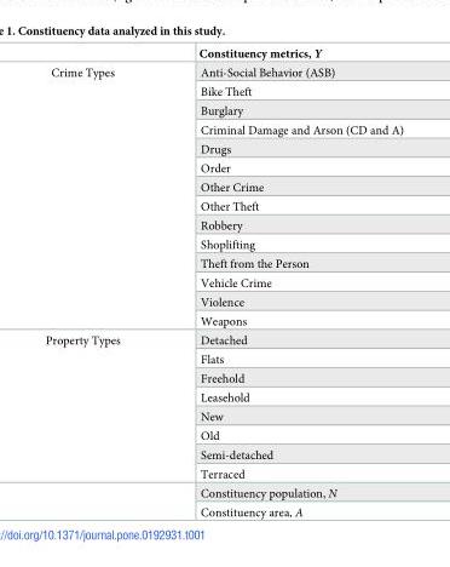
<table><thead><tr><td></td><td>Constituency metrics, Y</td></tr></thead><tbody><tr><td rowspan="14">Crime Types</td><td>Anti-Social Behavior (ASB)</td></tr><tr><td>Bike Theft</td></tr><tr><td>Burglary</td></tr><tr><td>Criminal Damage and Arson (CD and A)</td></tr><tr><td>Drugs</td></tr><tr><td>Order</td></tr><tr><td>Other Crime</td></tr><tr><td>Other Theft</td></tr><tr><td>Robbery</td></tr><tr><td>Shoplifting</td></tr><tr><td>Theft from the Person</td></tr><tr><td>Vehicle Crime</td></tr><tr><td>Violence</td></tr><tr><td>Weapons</td></tr><tr><td rowspan="10">Property Types</td><td>Detached</td></tr><tr><td>Flats</td></tr><tr><td>Freehold</td></tr><tr><td>Leasehold</td></tr><tr><td>New</td></tr><tr><td>Old</td></tr><tr><td>Semi-detached</td></tr><tr><td>Terraced</td></tr><tr><td>Constituency population, N</td></tr><tr><td>Constituency area, A</td></tr></tbody></table>